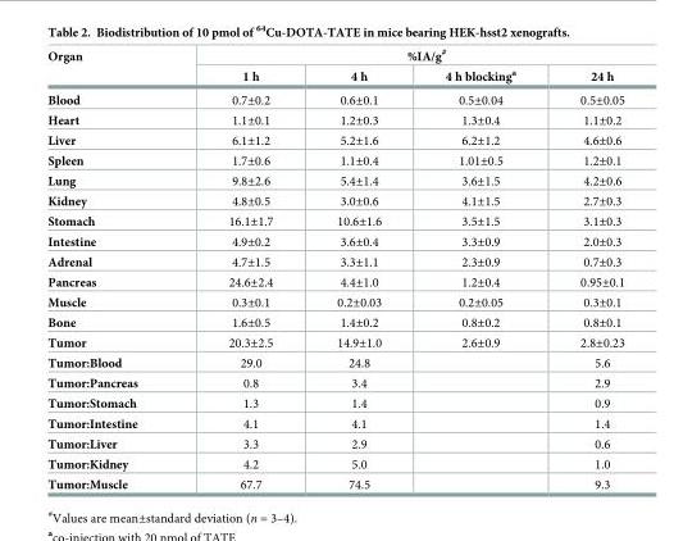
<table><thead><tr><td rowspan="2">Organ</td><td colspan="4">%IA/g<sup>#</sup></td></tr><tr><td>1 h</td><td>4 h</td><td>4 h blocking<sup>a</sup></td><td>24 h</td></tr></thead><tbody><tr><td>Blood</td><td>0.7±0.2</td><td>0.6±0.1</td><td>0.5±0.04</td><td>0.5±0.05</td></tr><tr><td>Heart</td><td>1.1±0.1</td><td>1.2±0.3</td><td>1.3±0.4</td><td>1.1±0.2</td></tr><tr><td>Liver</td><td>6.1±1.2</td><td>5.2±1.6</td><td>6.2±1.2</td><td>4.6±0.6</td></tr><tr><td>Spleen</td><td>1.7±0.6</td><td>1.1±0.4</td><td>1.01±0.5</td><td>1.2±0.1</td></tr><tr><td>Lung</td><td>9.8±2.6</td><td>5.4±1.4</td><td>3.6±1.5</td><td>4.2±0.6</td></tr><tr><td>Kidney</td><td>4.8±0.5</td><td>3.0±0.6</td><td>4.1±1.5</td><td>2.7±0.3</td></tr><tr><td>Stomach</td><td>16.1±1.7</td><td>10.6±1.6</td><td>3.5±1.5</td><td>3.1±0.3</td></tr><tr><td>Intestine</td><td>4.9±0.2</td><td>3.6±0.4</td><td>3.3±0.9</td><td>2.0±0.3</td></tr><tr><td>Adrenal</td><td>4.7±1.5</td><td>3.3±1.1</td><td>2.3±0.9</td><td>0.7±0.3</td></tr><tr><td>Pancreas</td><td>24.6±2.4</td><td>4.4±1.0</td><td>1.2±0.4</td><td>0.95±0.1</td></tr><tr><td>Muscle</td><td>0.3±0.1</td><td>0.2±0.03</td><td>0.2±0.05</td><td>0.3±0.1</td></tr><tr><td>Bone</td><td>1.6±0.5</td><td>1.4±0.2</td><td>0.8±0.2</td><td>0.8±0.1</td></tr><tr><td>Tumor</td><td>20.3±2.5</td><td>14.9±1.0</td><td>2.6±0.9</td><td>2.8±0.23</td></tr><tr><td>Tumor:Blood</td><td>29.0</td><td>24.8</td><td></td><td>5.6</td></tr><tr><td>Tumor:Pancreas</td><td>0.8</td><td>3.4</td><td></td><td>2.9</td></tr><tr><td>Tumor:Stomach</td><td>1.3</td><td>1.4</td><td></td><td>0.9</td></tr><tr><td>Tumor:Intestine</td><td>4.1</td><td>4.1</td><td></td><td>1.4</td></tr><tr><td>Tumor:Liver</td><td>3.3</td><td>2.9</td><td></td><td>0.6</td></tr><tr><td>Tumor:Kidney</td><td>4.2</td><td>5.0</td><td></td><td>1.0</td></tr><tr><td>Tumor:Muscle</td><td>67.7</td><td>74.5</td><td></td><td>9.3</td></tr></tbody></table>